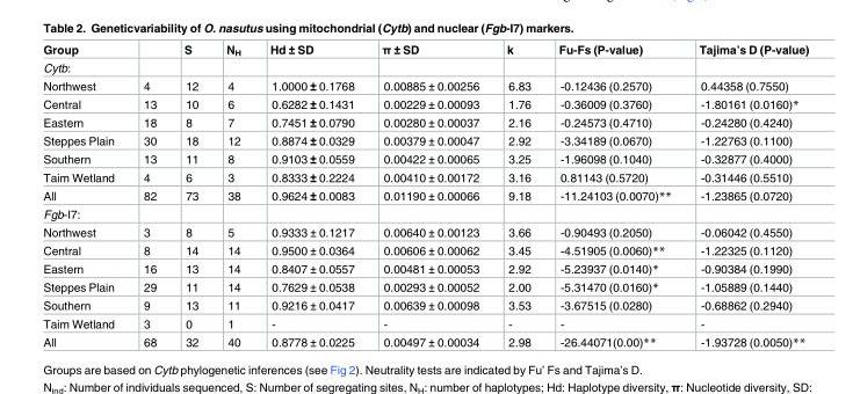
<table><thead><tr><td>Group</td><td></td><td>S</td><td>N<sub>H</sub></td><td>Hd ± SD</td><td>π ± SD</td><td>k</td><td>Fu-Fs (P-value)</td><td>Tajima’s D (P-value)</td></tr></thead><tbody><tr><td colspan="9">Cytb:</td></tr><tr><td>Northwest</td><td>4</td><td>12</td><td>4</td><td>1.0000 ± 0.1768</td><td>0.00885 ± 0.00256</td><td>6.83</td><td>-0.12436 (0.2570)</td><td>0.44358 (0.7550)</td></tr><tr><td>Central</td><td>13</td><td>10</td><td>6</td><td>0.6282 ± 0.1431</td><td>0.00229 ± 0.00093</td><td>1.76</td><td>-0.36009 (0.3760)</td><td>-1.80161 (0.0160)*</td></tr><tr><td>Eastern</td><td>18</td><td>8</td><td>7</td><td>0.7451 ± 0.0790</td><td>0.00280 ± 0.00037</td><td>2.16</td><td>-0.24573 (0.4710)</td><td>-0.24280 (0.4240)</td></tr><tr><td>Steppes Plain</td><td>30</td><td>18</td><td>12</td><td>0.8874 ± 0.0329</td><td>0.00379 ± 0.00047</td><td>2.92</td><td>-3.34189 (0.0670)</td><td>-1.22763 (0.1100)</td></tr><tr><td>Southern</td><td>13</td><td>11</td><td>8</td><td>0.9103 ± 0.0559</td><td>0.00422 ± 0.00065</td><td>3.25</td><td>-1.96098 (0.1040)</td><td>-0.32877 (0.4000)</td></tr><tr><td>Taim Wetland</td><td>4</td><td>6</td><td>3</td><td>0.8333 ± 0.2224</td><td>0.00410 ± 0.00172</td><td>3.16</td><td>0.81143 (0.5720)</td><td>-0.31446 (0.5510)</td></tr><tr><td>All</td><td>82</td><td>73</td><td>38</td><td>0.9624 ± 0.0083</td><td>0.01190 ± 0.00066</td><td>9.18</td><td>-11.24103 (0.0070)**</td><td>-1.23865 (0.0720)</td></tr><tr><td colspan="9">Fgb-I7:</td></tr><tr><td>Northwest</td><td>3</td><td>8</td><td>5</td><td>0.9333 ± 0.1217</td><td>0.00640 ± 0.00123</td><td>3.66</td><td>-0.90493 (0.2050)</td><td>-0.06042 (0.4550)</td></tr><tr><td>Central</td><td>8</td><td>14</td><td>14</td><td>0.9500 ± 0.0364</td><td>0.00606 ± 0.00062</td><td>3.45</td><td>-4.51905 (0.0060)**</td><td>-1.22325 (0.1120)</td></tr><tr><td>Eastern</td><td>16</td><td>13</td><td>14</td><td>0.8407 ± 0.0557</td><td>0.00481 ± 0.00053</td><td>2.92</td><td>-5.23937 (0.0140)*</td><td>-0.90384 (0.1990)</td></tr><tr><td>Steppes Plain</td><td>29</td><td>11</td><td>14</td><td>0.7629 ± 0.0538</td><td>0.00293 ± 0.00052</td><td>2.00</td><td>-5.31470 (0.0160)*</td><td>-1.05889 (0.1440)</td></tr><tr><td>Southern</td><td>9</td><td>13</td><td>11</td><td>0.9216 ± 0.0417</td><td>0.00639 ± 0.00098</td><td>3.53</td><td>-3.67515 (0.0280)</td><td>-0.68862 (0.2940)</td></tr><tr><td>Taim Wetland</td><td>3</td><td>0</td><td>1</td><td>-</td><td>-</td><td>-</td><td>-</td><td>-</td></tr><tr><td>All</td><td>68</td><td>32</td><td>40</td><td>0.8778 ± 0.0225</td><td>0.00497 ± 0.00034</td><td>2.98</td><td>-26.44071(0.00)**</td><td>-1.93728 (0.0050)**</td></tr></tbody></table>